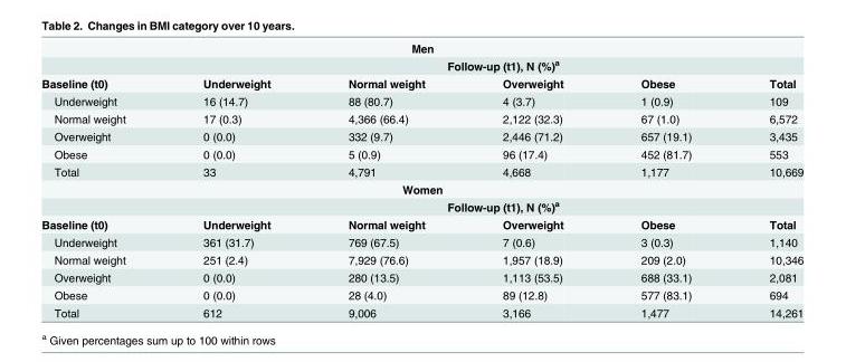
<table><tbody><tr><td colspan="6">Men</td></tr><tr><td></td><td colspan="5">Follow-up (t1), N (%)<sup>a</sup></td></tr><tr><td>Baseline (t0)</td><td>Underweight</td><td>Normal weight</td><td>Overweight</td><td>Obese</td><td>Total</td></tr><tr><td>Underweight</td><td>16 (14.7)</td><td>88 (80.7)</td><td>4 (3.7)</td><td>1 (0.9)</td><td>109</td></tr><tr><td>Normal weight</td><td>17 (0.3)</td><td>4,366 (66.4)</td><td>2,122 (32.3)</td><td>67 (1.0)</td><td>6,572</td></tr><tr><td>Overweight</td><td>0 (0.0)</td><td>332 (9.7)</td><td>2,446 (71.2)</td><td>657 (19.1)</td><td>3,435</td></tr><tr><td>Obese</td><td>0 (0.0)</td><td>5 (0.9)</td><td>96 (17.4)</td><td>452 (81.7)</td><td>553</td></tr><tr><td>Total</td><td>33</td><td>4,791</td><td>4,668</td><td>1,177</td><td>10,669</td></tr><tr><td colspan="6">Women</td></tr><tr><td></td><td colspan="5">Follow-up (t1), N (%)<sup>a</sup></td></tr><tr><td>Baseline (t0)</td><td>Underweight</td><td>Normal weight</td><td>Overweight</td><td>Obese</td><td>Total</td></tr><tr><td>Underweight</td><td>361 (31.7)</td><td>769 (67.5)</td><td>7 (0.6)</td><td>3 (0.3)</td><td>1,140</td></tr><tr><td>Normal weight</td><td>251 (2.4)</td><td>7,929 (76.6)</td><td>1,957 (18.9)</td><td>209 (2.0)</td><td>10,346</td></tr><tr><td>Overweight</td><td>0 (0.0)</td><td>280 (13.5)</td><td>1,113 (53.5)</td><td>688 (33.1)</td><td>2,081</td></tr><tr><td>Obese</td><td>0 (0.0)</td><td>28 (4.0)</td><td>89 (12.8)</td><td>577 (83.1)</td><td>694</td></tr><tr><td>Total</td><td>612</td><td>9,006</td><td>3,166</td><td>1,477</td><td>14,261</td></tr></tbody></table>